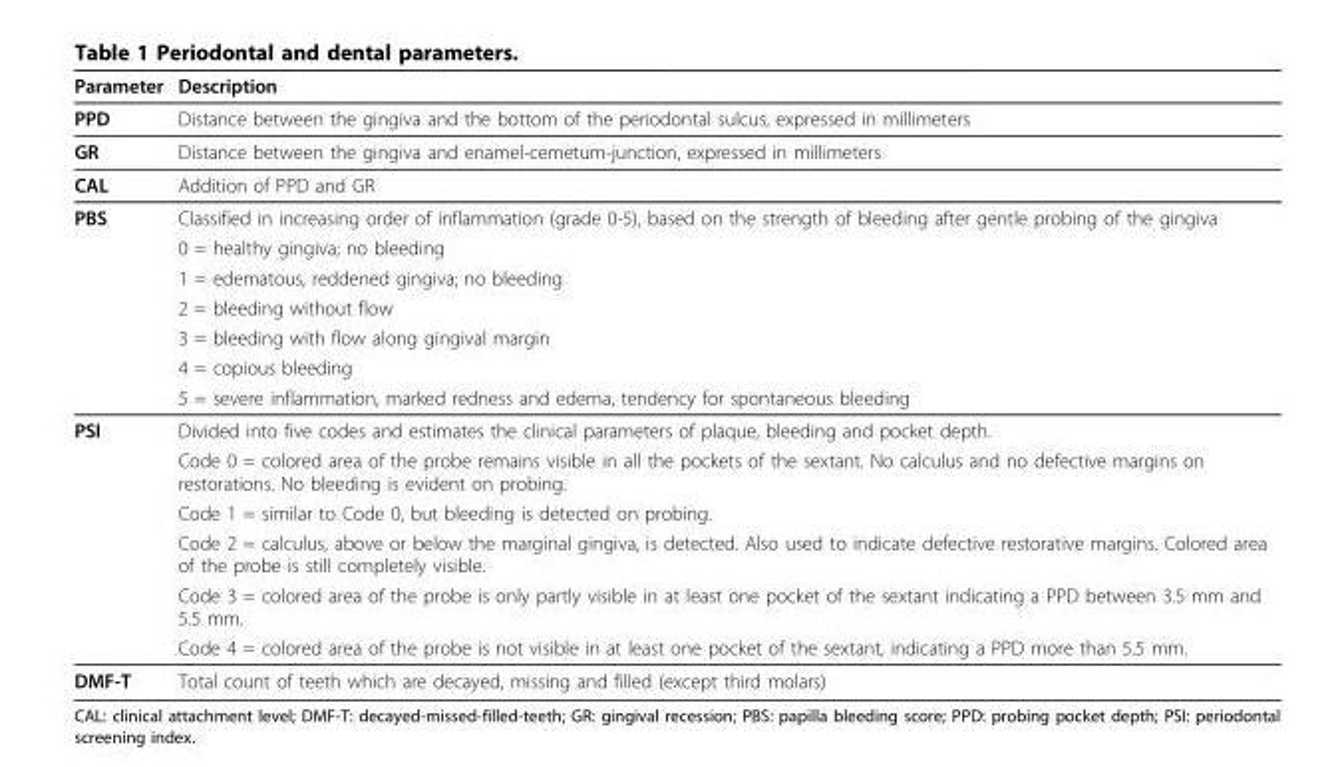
<table><thead><tr><td>Parameter</td><td>Description</td></tr></thead><tbody><tr><td>PPD</td><td>Distance between the gingiva and the bottom of the periodontal sulcus, expressed in millimeters</td></tr><tr><td>GR</td><td>Distance between the gingiva and enamel-cemetum-junction, expressed in millimeters</td></tr><tr><td>CAL</td><td>Addition of PPD and GR</td></tr><tr><td rowspan="7">PBS</td><td>Classified in increasing order of inflammation (grade 0-5), based on the strength of bleeding after gentle probing of the gingiva</td></tr><tr><td>0 = healthy gingiva; no bleeding</td></tr><tr><td>1 = edematous, reddened gingiva; no bleeding</td></tr><tr><td>2 = bleeding without flow</td></tr><tr><td>3 = bleeding with flow along gingival margin</td></tr><tr><td>4 = copious bleeding</td></tr><tr><td>5 = severe inflammation, marked redness and edema, tendency for spontaneous bleeding</td></tr><tr><td rowspan="6">PSI</td><td>Divided into five codes and estimates the clinical parameters of plaque, bleeding and pocket depth.</td></tr><tr><td>Code 0 = colored area of the probe remains visible in all the pockets of the sextant. No calculus and no defective margins on restorations. No bleeding is evident on probing.</td></tr><tr><td>Code 1 = similar to Code 0, but bleeding is detected on probing.</td></tr><tr><td>Code 2 = calculus, above or below the marginal gingiva, is detected. Also used to indicate defective restorative margins. Colored area of the probe is still completely visible.</td></tr><tr><td>Code 3 = colored area of the probe is only partly visible in at least one pocket of the sextant indicating a PPD between 3.5 mm and 5.5 mm.</td></tr><tr><td>Code 4 = colored area of the probe is not visible in at least one pocket of the sextant, indicating a PPD more than 5.5 mm.</td></tr><tr><td>DMF-T</td><td>Total count of teeth which are decayed, missing and filled (except third molars)</td></tr></tbody></table>